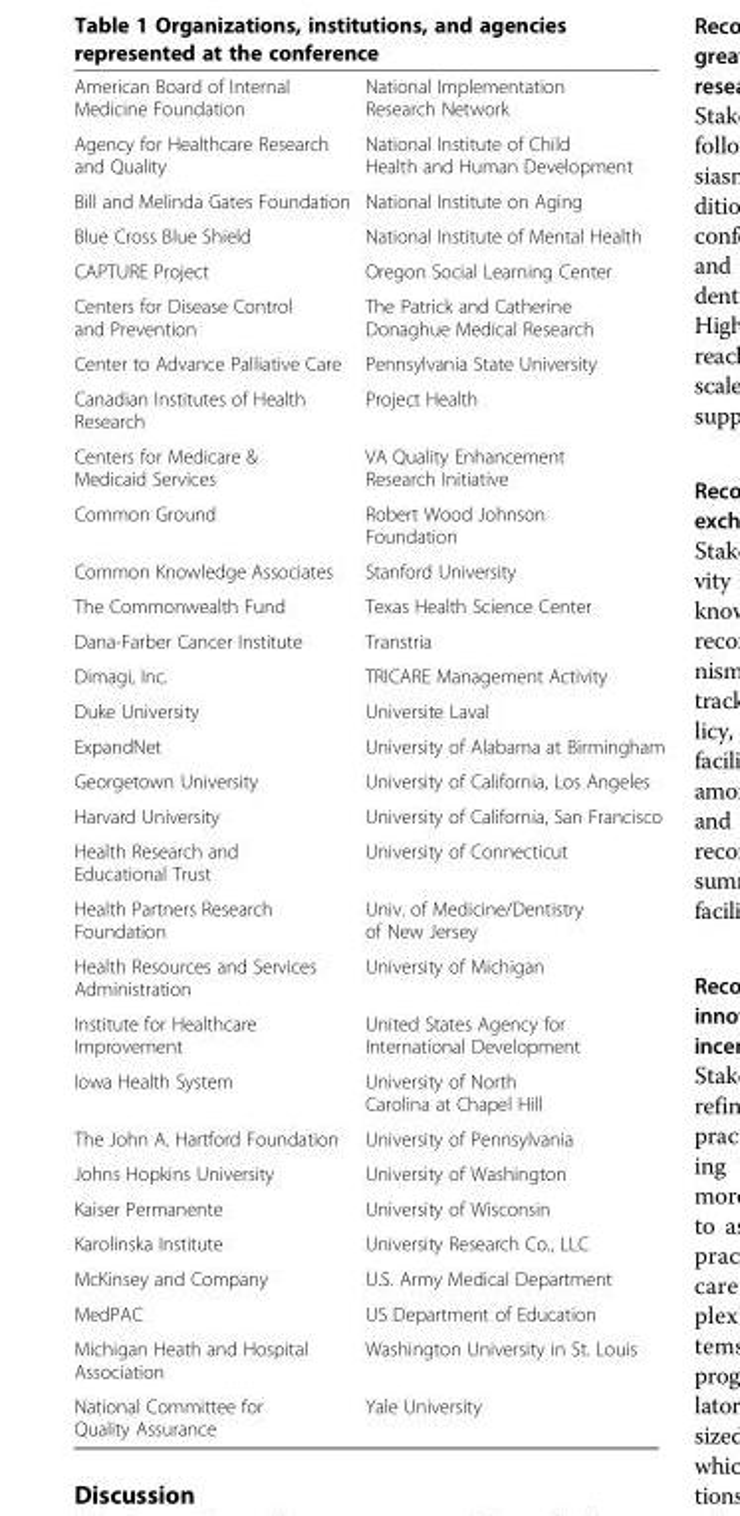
<table><tbody><tr><td>American Board of Internal Medicine Foundation</td><td>National Implementation Research Network</td></tr><tr><td>Agency for Healthcare Research and Quality</td><td>National Institute of Child Health and Human Development</td></tr><tr><td>Bill and Melinda Gates Foundation</td><td>National Institute on Aging</td></tr><tr><td>Blue Cross Blue Shield</td><td>National Institute of Mental Health</td></tr><tr><td>CAPTURE Project</td><td>Oregon Social Learning Center</td></tr><tr><td>Centers for Disease Control and Prevention</td><td>The Patrick and Catherine Donaghue Medical Research</td></tr><tr><td>Center to Advance Palliative Care</td><td>Pennsylvania State University</td></tr><tr><td>Canadian Institutes of Health Research</td><td>Project Health</td></tr><tr><td>Centers for Medicare &amp; Medicaid Services</td><td>VA Quality Enhancement Research Initiative</td></tr><tr><td>Common Ground</td><td>Robert Wood Johnson Foundation</td></tr><tr><td>Common Knowledge Associates</td><td>Stanford University</td></tr><tr><td>The Commonwealth Fund</td><td>Texas Health Science Center</td></tr><tr><td>Dana-Farber Cancer Institute</td><td>Transtria</td></tr><tr><td>Dimagi, Inc.</td><td>TRICARE Management Activity</td></tr><tr><td>Duke University</td><td>Universite Laval</td></tr><tr><td>ExpandNet</td><td>University of Alabama at Birmingham</td></tr><tr><td>Georgetown University</td><td>University of California, Los Angeles</td></tr><tr><td>Harvard University</td><td>University of California, San Francisco</td></tr><tr><td>Health Research and Educational Trust</td><td>University of Connecticut</td></tr><tr><td>Health Partners Research Foundation</td><td>Univ. of Medicine/Dentistry of New Jersey</td></tr><tr><td>Health Resources and Services Administration</td><td>University of Michigan</td></tr><tr><td>Institute for Healthcare Improvement</td><td>United States Agency for International Development</td></tr><tr><td>Iowa Health System</td><td>University of North Carolina at Chapel Hill</td></tr><tr><td>The John A. Hartford Foundation</td><td>University of Pennsylvania</td></tr><tr><td>Johns Hopkins University</td><td>University of Washington</td></tr><tr><td>Kaiser Permanente</td><td>University of Wisconsin</td></tr><tr><td>Karolinska Institute</td><td>University Research Co., LLC</td></tr><tr><td>McKinsey and Company</td><td>U.S. Army Medical Department</td></tr><tr><td>MedPAC</td><td>US Department of Education</td></tr><tr><td>Michigan Heath and Hospital Association</td><td>Washington University in St. Louis</td></tr><tr><td>National Committee for Quality Assurance</td><td>Yale University</td></tr></tbody></table>